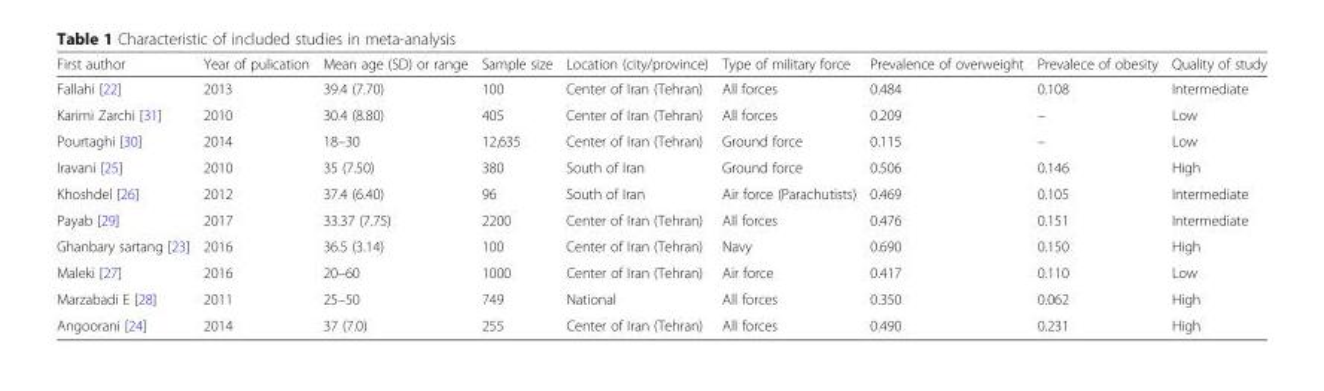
<table><thead><tr><td>First author</td><td>Year of pulication</td><td>Mean age (SD) or range</td><td>Sample size</td><td>Location (city/province)</td><td>Type of military force</td><td>Prevalence of overweight</td><td>Prevalece of obesity</td><td>Quality of study</td></tr></thead><tbody><tr><td>Fallahi [22]</td><td>2013</td><td>39.4 (7.70)</td><td>100</td><td>Center of Iran (Tehran)</td><td>All forces</td><td>0.484</td><td>0.108</td><td>Intermediate</td></tr><tr><td>Karimi Zarchi [31]</td><td>2010</td><td>30.4 (8.80)</td><td>405</td><td>Center of Iran (Tehran)</td><td>All forces</td><td>0.209</td><td>–</td><td>Low</td></tr><tr><td>Pourtaghi [30]</td><td>2014</td><td>18–30</td><td>12,635</td><td>Center of Iran (Tehran)</td><td>Ground force</td><td>0.115</td><td>–</td><td>Low</td></tr><tr><td>Iravani [25]</td><td>2010</td><td>35 (7.50)</td><td>380</td><td>South of Iran</td><td>Ground force</td><td>0.506</td><td>0.146</td><td>High</td></tr><tr><td>Khoshdel [26]</td><td>2012</td><td>37.4 (6.40)</td><td>96</td><td>South of Iran</td><td>Air force (Parachutists)</td><td>0.469</td><td>0.105</td><td>Intermediate</td></tr><tr><td>Payab [29]</td><td>2017</td><td>33.37 (7.75)</td><td>2200</td><td>Center of Iran (Tehran)</td><td>All forces</td><td>0.476</td><td>0.151</td><td>Intermediate</td></tr><tr><td>Ghanbary sartang [23]</td><td>2016</td><td>36.5 (3.14)</td><td>100</td><td>Center of Iran (Tehran)</td><td>Navy</td><td>0.690</td><td>0.150</td><td>High</td></tr><tr><td>Maleki [27]</td><td>2016</td><td>20–60</td><td>1000</td><td>Center of Iran (Tehran)</td><td>Air force</td><td>0.417</td><td>0.110</td><td>Low</td></tr><tr><td>Marzabadi E [28]</td><td>2011</td><td>25–50</td><td>749</td><td>National</td><td>All forces</td><td>0.350</td><td>0.062</td><td>High</td></tr><tr><td>Angoorani [24]</td><td>2014</td><td>37 (7.0)</td><td>255</td><td>Center of Iran (Tehran)</td><td>All forces</td><td>0.490</td><td>0.231</td><td>High</td></tr></tbody></table>